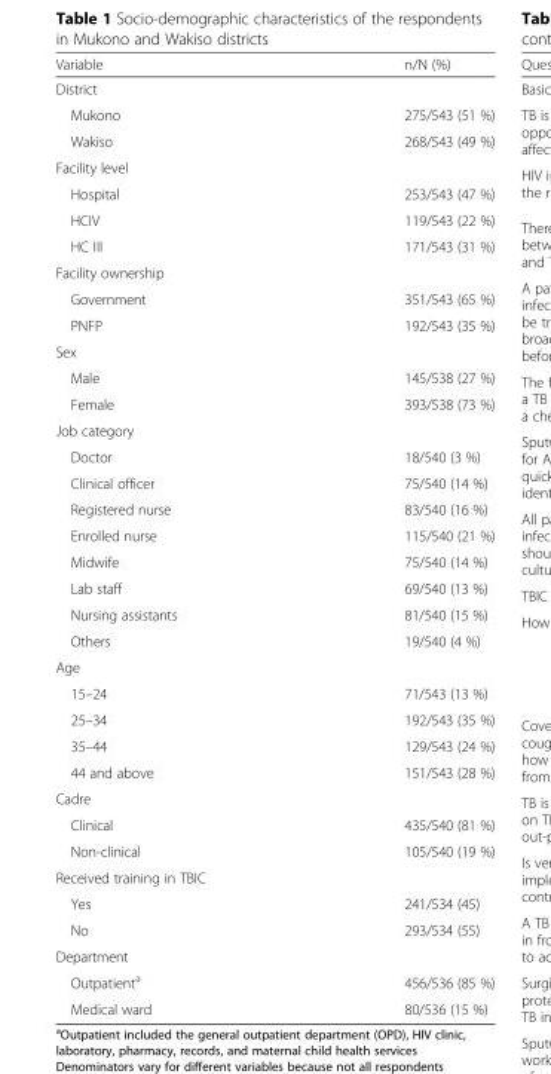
<table><thead><tr><td>Variable</td><td>n/N (%)</td></tr></thead><tbody><tr><td colspan="2">District</td></tr><tr><td>Mukono</td><td>275/543 (51 %)</td></tr><tr><td>Wakiso</td><td>268/543 (49 %)</td></tr><tr><td colspan="2">Facility level</td></tr><tr><td>Hospital</td><td>253/543 (47 %)</td></tr><tr><td>HCIV</td><td>119/543 (22 %)</td></tr><tr><td>HC III</td><td>171/543 (31 %)</td></tr><tr><td colspan="2">Facility ownership</td></tr><tr><td>Government</td><td>351/543 (65 %)</td></tr><tr><td>PNFP</td><td>192/543 (35 %)</td></tr><tr><td colspan="2">Sex</td></tr><tr><td>Male</td><td>145/538 (27 %)</td></tr><tr><td>Female</td><td>393/538 (73 %)</td></tr><tr><td colspan="2">Job category</td></tr><tr><td>Doctor</td><td>18/540 (3 %)</td></tr><tr><td>Clinical officer</td><td>75/540 (14 %)</td></tr><tr><td>Registered nurse</td><td>83/540 (16 %)</td></tr><tr><td>Enrolled nurse</td><td>115/540 (21 %)</td></tr><tr><td>Midwife</td><td>75/540 (14 %)</td></tr><tr><td>Lab staff</td><td>69/540 (13 %)</td></tr><tr><td>Nursing assistants</td><td>81/540 (15 %)</td></tr><tr><td>Others</td><td>19/540 (4 %)</td></tr><tr><td colspan="2">Age</td></tr><tr><td>15–24</td><td>71/543 (13 %)</td></tr><tr><td>25–34</td><td>192/543 (35 %)</td></tr><tr><td>35–44</td><td>129/543 (24 %)</td></tr><tr><td>44 and above</td><td>151/543 (28 %)</td></tr><tr><td colspan="2">Cadre</td></tr><tr><td>Clinical</td><td>435/540 (81 %)</td></tr><tr><td>Non-clinical</td><td>105/540 (19 %)</td></tr><tr><td colspan="2">Received training in TBIC</td></tr><tr><td>Yes</td><td>241/534 (45)</td></tr><tr><td>No</td><td>293/534 (55)</td></tr><tr><td colspan="2">Department</td></tr><tr><td>Outpatient<sup>a</sup></td><td>456/536 (85 %)</td></tr><tr><td>Medical ward</td><td>80/536 (15 %)</td></tr></tbody></table>